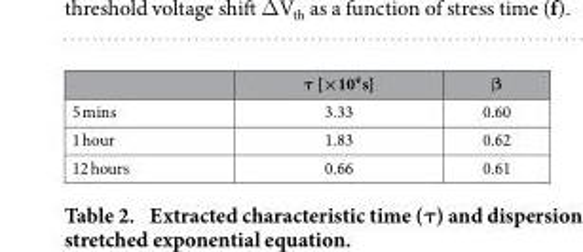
<table><thead><tr><td></td><td>τ [×10<sup>4</sup> s]</td><td>β</td></tr></thead><tbody><tr><td>5 mins</td><td>3.33</td><td>0.60</td></tr><tr><td>1 hour</td><td>1.83</td><td>0.62</td></tr><tr><td>12 hours</td><td>0.66</td><td>0.61</td></tr></tbody></table>